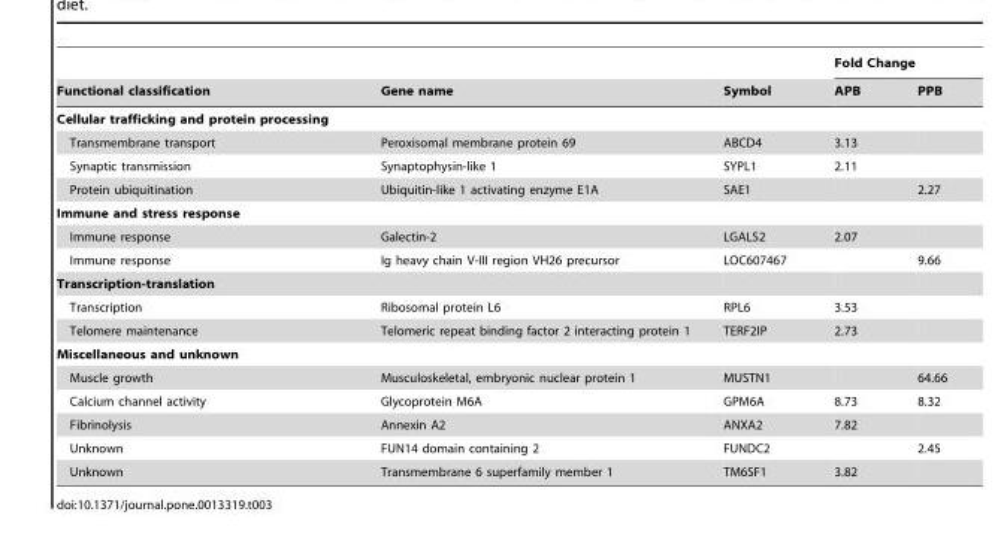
<table><thead><tr><td rowspan="2">Functional classification</td><td rowspan="2">Gene name</td><td rowspan="2">Symbol</td><td colspan="2">Fold Change</td></tr><tr><td>APB</td><td>PPB</td></tr></thead><tbody><tr><td colspan="5">Cellular trafficking and protein processing</td></tr><tr><td>Transmembrane transport</td><td>Peroxisomal membrane protein 69</td><td>ABCD4</td><td>3.13</td><td></td></tr><tr><td>Synaptic transmission</td><td>Synaptophysin-like 1</td><td>SYPL1</td><td>2.11</td><td></td></tr><tr><td>Protein ubiquitination</td><td>Ubiquitin-like 1 activating enzyme E1A</td><td>SAE1</td><td></td><td>2.27</td></tr><tr><td colspan="5">Immune and stress response</td></tr><tr><td>Immune response</td><td>Galectin-2</td><td>LGALS2</td><td>2.07</td><td></td></tr><tr><td>Immune response</td><td>Ig heavy chain V-III region VH26 precursor</td><td>LOC607467</td><td></td><td>9.66</td></tr><tr><td colspan="5">Transcription-translation</td></tr><tr><td>Transcription</td><td>Ribosomal protein L6</td><td>RPL6</td><td>3.53</td><td></td></tr><tr><td>Telomere maintenance</td><td>Telomeric repeat binding factor 2 interacting protein 1</td><td>TERF2IP</td><td>2.73</td><td></td></tr><tr><td colspan="5">Miscellaneous and unknown</td></tr><tr><td>Muscle growth</td><td>Musculoskeletal, embryonic nuclear protein 1</td><td>MUSTN1</td><td></td><td>64.66</td></tr><tr><td>Calcium channel activity</td><td>Glycoprotein M6A</td><td>GPM6A</td><td>8.73</td><td>8.32</td></tr><tr><td>Fibrinolysis</td><td>Annexin A2</td><td>ANXA2</td><td>7.82</td><td></td></tr><tr><td>Unknown</td><td>FUN14 domain containing 2</td><td>FUNDC2</td><td></td><td>2.45</td></tr><tr><td>Unknown</td><td>Transmembrane 6 superfamily member 1</td><td>TM6SF1</td><td>3.82</td><td></td></tr></tbody></table>